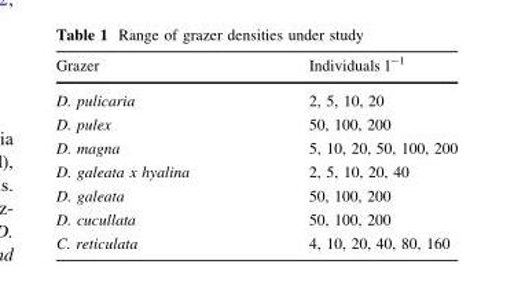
<table><thead><tr><td>Grazer</td><td>Individuals l<sup>-1</sup></td></tr></thead><tbody><tr><td>D. pulicaria</td><td>2, 5, 10, 20</td></tr><tr><td>D. pulex</td><td>50, 100, 200</td></tr><tr><td>D. magna</td><td>5, 10, 20, 50, 100, 200</td></tr><tr><td>D. galeata x hyalina</td><td>2, 5, 10, 20, 40</td></tr><tr><td>D. galeata</td><td>50, 100, 200</td></tr><tr><td>D. cucullata</td><td>50, 100, 200</td></tr><tr><td>C. reticulata</td><td>4, 10, 20, 40, 80, 160</td></tr></tbody></table>